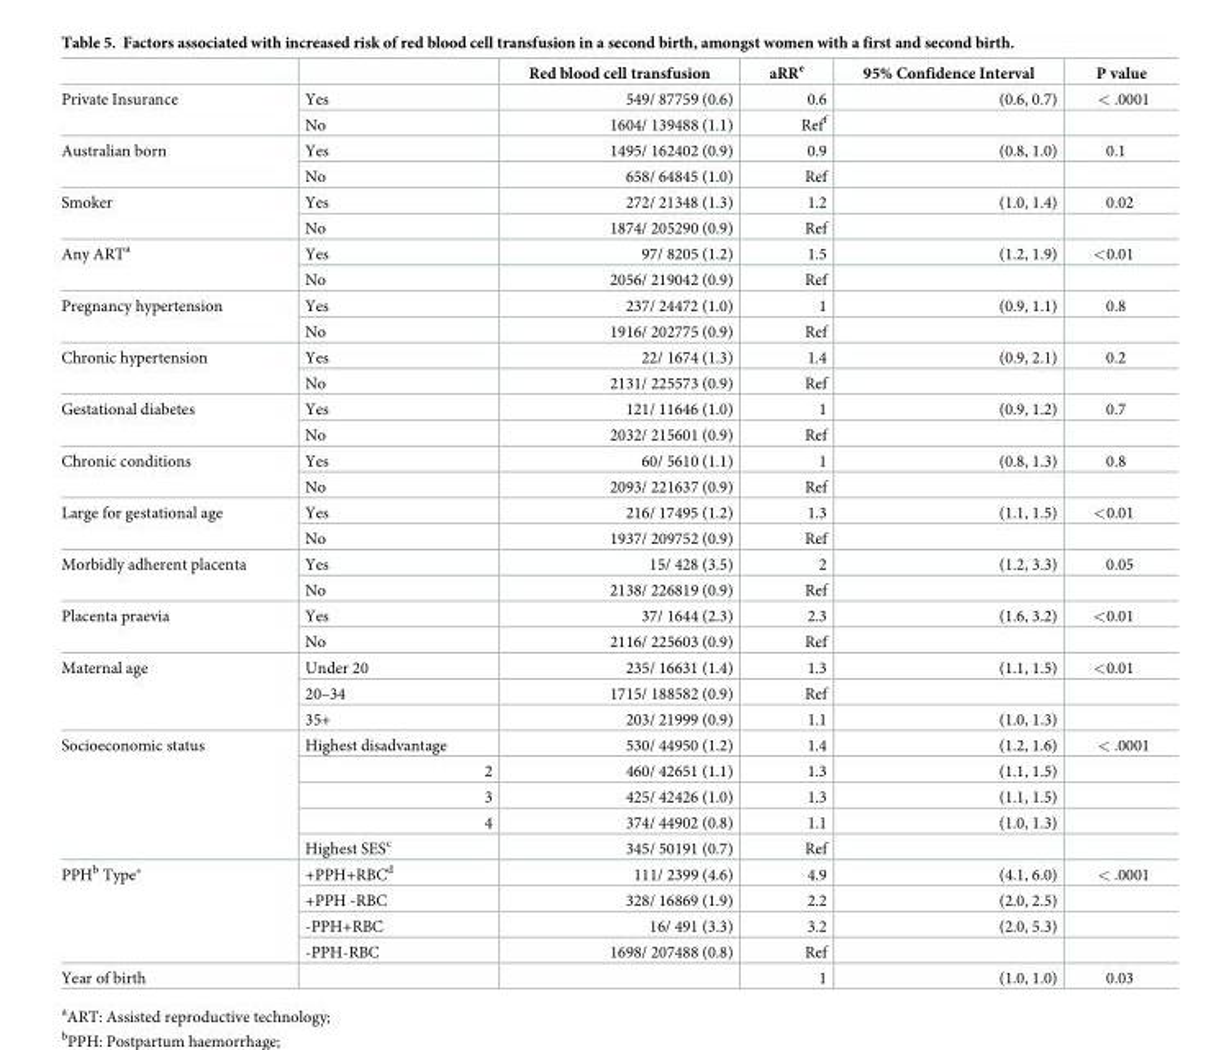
<table><thead><tr><td></td><td></td><td>Red blood cell transfusion</td><td>aRR<sup>e</sup></td><td>95% Confidence Interval</td><td>P value</td></tr></thead><tbody><tr><td rowspan="2">Private Insurance</td><td>Yes</td><td>549/ 87759 (0.6)</td><td>0.6</td><td>(0.6, 0.7)</td><td>&lt; .0001</td></tr><tr><td>No</td><td>1604/ 139488 (1.1)</td><td>Ref<sup>f</sup></td><td></td><td></td></tr><tr><td rowspan="2">Australian born</td><td>Yes</td><td>1495/ 162402 (0.9)</td><td>0.9</td><td>(0.8, 1.0)</td><td>0.1</td></tr><tr><td>No</td><td>658/ 64845 (1.0)</td><td>Ref</td><td></td><td></td></tr><tr><td rowspan="2">Smoker</td><td>Yes</td><td>272/ 21348 (1.3)</td><td>1.2</td><td>(1.0, 1.4)</td><td>0.02</td></tr><tr><td>No</td><td>1874/ 205290 (0.9)</td><td>Ref</td><td></td><td></td></tr><tr><td rowspan="2">Any ART<sup>a</sup></td><td>Yes</td><td>97/ 8205 (1.2)</td><td>1.5</td><td>(1.2, 1.9)</td><td>&lt;0.01</td></tr><tr><td>No</td><td>2056/ 219042 (0.9)</td><td>Ref</td><td></td><td></td></tr><tr><td rowspan="2">Pregnancy hypertension</td><td>Yes</td><td>237/ 24472 (1.0)</td><td>1</td><td>(0.9, 1.1)</td><td>0.8</td></tr><tr><td>No</td><td>1916/ 202775 (0.9)</td><td>Ref</td><td></td><td></td></tr><tr><td rowspan="2">Chronic hypertension</td><td>Yes</td><td>22/ 1674 (1.3)</td><td>1.4</td><td>(0.9, 2.1)</td><td>0.2</td></tr><tr><td>No</td><td>2131/ 225573 (0.9)</td><td>Ref</td><td></td><td></td></tr><tr><td rowspan="2">Gestational diabetes</td><td>Yes</td><td>121/ 11646 (1.0)</td><td>1</td><td>(0.9, 1.2)</td><td>0.7</td></tr><tr><td>No</td><td>2032/ 215601 (0.9)</td><td>Ref</td><td></td><td></td></tr><tr><td rowspan="2">Chronic conditions</td><td>Yes</td><td>60/ 5610 (1.1)</td><td>1</td><td>(0.8, 1.3)</td><td>0.8</td></tr><tr><td>No</td><td>2093/ 221637 (0.9)</td><td>Ref</td><td></td><td></td></tr><tr><td rowspan="2">Large for gestational age</td><td>Yes</td><td>216/ 17495 (1.2)</td><td>1.3</td><td>(1.1, 1.5)</td><td>&lt;0.01</td></tr><tr><td>No</td><td>1937/ 209752 (0.9)</td><td>Ref</td><td></td><td></td></tr><tr><td rowspan="2">Morbidly adherent placenta</td><td>Yes</td><td>15/ 428 (3.5)</td><td>2</td><td>(1.2, 3.3)</td><td>0.05</td></tr><tr><td>No</td><td>2138/ 226819 (0.9)</td><td>Ref</td><td></td><td></td></tr><tr><td rowspan="2">Placenta praevia</td><td>Yes</td><td>37/ 1644 (2.3)</td><td>2.3</td><td>(1.6, 3.2)</td><td>&lt;0.01</td></tr><tr><td>No</td><td>2116/ 225603 (0.9)</td><td>Ref</td><td></td><td></td></tr><tr><td rowspan="3">Maternal age</td><td>Under 20</td><td>235/ 16631 (1.4)</td><td>1.3</td><td>(1.1, 1.5)</td><td>&lt;0.01</td></tr><tr><td>20–34</td><td>1715/ 188582 (0.9)</td><td>Ref</td><td></td><td></td></tr><tr><td>35+</td><td>203/ 21999 (0.9)</td><td>1.1</td><td>(1.0, 1.3)</td><td></td></tr><tr><td rowspan="5">Socioeconomic status</td><td>Highest disadvantage</td><td>530/ 44950 (1.2)</td><td>1.4</td><td>(1.2, 1.6)</td><td>&lt; .0001</td></tr><tr><td>2</td><td>460/ 42651 (1.1)</td><td>1.3</td><td>(1.1, 1.5)</td><td></td></tr><tr><td>3</td><td>425/ 42426 (1.0)</td><td>1.3</td><td>(1.1, 1.5)</td><td></td></tr><tr><td>4</td><td>374/ 44902 (0.8)</td><td>1.1</td><td>(1.0, 1.3)</td><td></td></tr><tr><td>Highest SES<sup>c</sup></td><td>345/ 50191 (0.7)</td><td>Ref</td><td></td><td></td></tr><tr><td rowspan="4">PPH<sup>b</sup> Type*</td><td>+PPH+RBC<sup>d</sup></td><td>111/ 2399 (4.6)</td><td>4.9</td><td>(4.1, 6.0)</td><td>&lt; .0001</td></tr><tr><td>+PPH -RBC</td><td>328/ 16869 (1.9)</td><td>2.2</td><td>(2.0, 2.5)</td><td></td></tr><tr><td>-PPH+RBC</td><td>16/ 491 (3.3)</td><td>3.2</td><td>(2.0, 5.3)</td><td></td></tr><tr><td>-PPH-RBC</td><td>1698/ 207488 (0.8)</td><td>Ref</td><td></td><td></td></tr><tr><td>Year of birth</td><td></td><td></td><td>1</td><td>(1.0, 1.0)</td><td>0.03</td></tr></tbody></table>